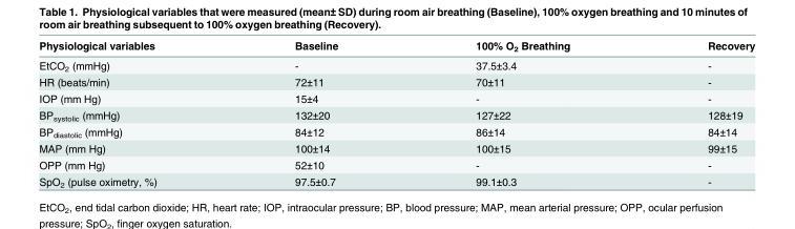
<table><thead><tr><td>Physiological variables</td><td>Baseline</td><td>100% O<sub>2</sub> Breathing</td><td>Recovery</td></tr></thead><tbody><tr><td>EtCO<sub>2</sub> (mmHg)</td><td>-</td><td>37.5±3.4</td><td>-</td></tr><tr><td>HR (beats/min)</td><td>72±11</td><td>70±11</td><td>-</td></tr><tr><td>IOP (mm Hg)</td><td>15±4</td><td>-</td><td>-</td></tr><tr><td>BP<sub>systolic</sub> (mmHg)</td><td>132±20</td><td>127±22</td><td>128±19</td></tr><tr><td>BP<sub>diastolic</sub> (mmHg)</td><td>84±12</td><td>86±14</td><td>84±14</td></tr><tr><td>MAP (mm Hg)</td><td>100±14</td><td>100±15</td><td>99±15</td></tr><tr><td>OPP (mm Hg)</td><td>52±10</td><td>-</td><td>-</td></tr><tr><td>SpO<sub>2</sub> (pulse oximetry, %)</td><td>97.5±0.7</td><td>99.1±0.3</td><td>-</td></tr></tbody></table>